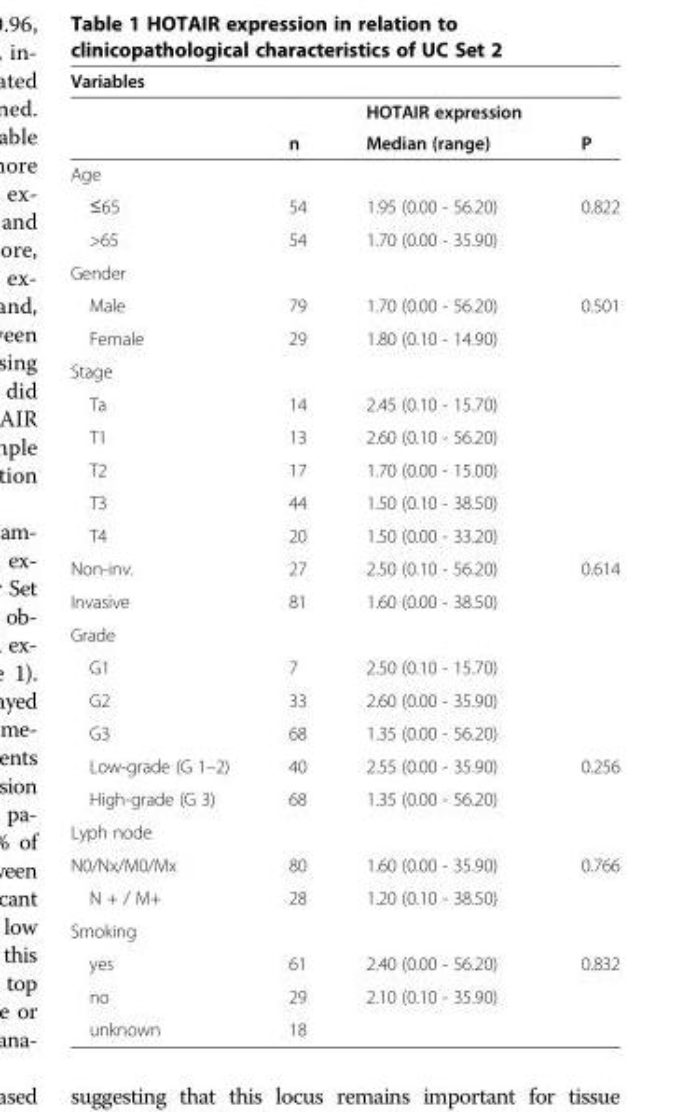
<table><thead><tr><td rowspan="3">Variables</td><td rowspan="3">n</td><td rowspan="3">HOTAIR expression Median (range)</td><td rowspan="3">P</td></tr><tr></tr><tr></tr></thead><tbody><tr><td colspan="4">Age</td></tr><tr><td>≤65</td><td>54</td><td>1.95 (0.00 - 56.20)</td><td>0.822</td></tr><tr><td>&gt;65</td><td>54</td><td>1.70 (0.00 - 35.90)</td><td></td></tr><tr><td colspan="4">Gender</td></tr><tr><td>Male</td><td>79</td><td>1.70 (0.00 - 56.20)</td><td>0.501</td></tr><tr><td>Female</td><td>29</td><td>1.80 (0.10 - 14.90)</td><td></td></tr><tr><td colspan="4">Stage</td></tr><tr><td>Ta</td><td>14</td><td>2.45 (0.10 - 15.70)</td><td></td></tr><tr><td>T1</td><td>13</td><td>2.60 (0.10 - 56.20)</td><td></td></tr><tr><td>T2</td><td>17</td><td>1.70 (0.00 - 15.00)</td><td></td></tr><tr><td>T3</td><td>44</td><td>1.50 (0.10 - 38.50)</td><td></td></tr><tr><td>T4</td><td>20</td><td>1.50 (0.00 - 33.20)</td><td></td></tr><tr><td>Non-inv.</td><td>27</td><td>2.50 (0.10 - 56.20)</td><td>0.614</td></tr><tr><td>Invasive</td><td>81</td><td>1.60 (0.00 - 38.50)</td><td></td></tr><tr><td colspan="4">Grade</td></tr><tr><td>G1</td><td>7</td><td>2.50 (0.10 - 15.70)</td><td></td></tr><tr><td>G2</td><td>33</td><td>2.60 (0.00 - 35.90)</td><td></td></tr><tr><td>G3</td><td>68</td><td>1.35 (0.00 - 56.20)</td><td></td></tr><tr><td>Low-grade (G 1–2)</td><td>40</td><td>2.55 (0.00 - 35.90)</td><td>0.256</td></tr><tr><td>High-grade (G 3)</td><td>68</td><td>1.35 (0.00 - 56.20)</td><td></td></tr><tr><td colspan="4">Lyph node</td></tr><tr><td>N0/Nx/M0/Mx</td><td>80</td><td>1.60 (0.00 - 35.90)</td><td>0.766</td></tr><tr><td>N + / M+</td><td>28</td><td>1.20 (0.10 - 38.50)</td><td></td></tr><tr><td colspan="4">Smoking</td></tr><tr><td>yes</td><td>61</td><td>2.40 (0.00 - 56.20)</td><td>0.832</td></tr><tr><td>no</td><td>29</td><td>2.10 (0.10 - 35.90)</td><td></td></tr><tr><td>unknown</td><td>18</td><td></td><td></td></tr></tbody></table>